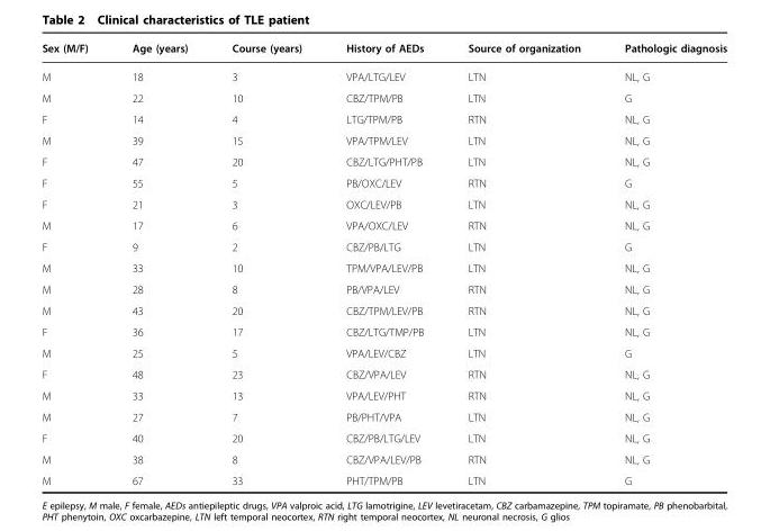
<table><thead><tr><td>Sex (M/F)</td><td>Age (years)</td><td>Course (years)</td><td>History of AEDs</td><td>Source of organization</td><td>Pathologic diagnosis</td></tr></thead><tbody><tr><td>M</td><td>18</td><td>3</td><td>VPA/LTG/LEV</td><td>LTN</td><td>NL, G</td></tr><tr><td>M</td><td>22</td><td>10</td><td>CBZ/TPM/PB</td><td>LTN</td><td>G</td></tr><tr><td>F</td><td>14</td><td>4</td><td>LTG/TPM/PB</td><td>RTN</td><td>NL, G</td></tr><tr><td>M</td><td>39</td><td>15</td><td>VPA/TPM/LEV</td><td>LTN</td><td>NL, G</td></tr><tr><td>F</td><td>47</td><td>20</td><td>CBZ/LTG/PHT/PB</td><td>LTN</td><td>NL, G</td></tr><tr><td>F</td><td>55</td><td>5</td><td>PB/OXC/LEV</td><td>RTN</td><td>G</td></tr><tr><td>F</td><td>21</td><td>3</td><td>OXC/LEV/PB</td><td>LTN</td><td>NL, G</td></tr><tr><td>M</td><td>17</td><td>6</td><td>VPA/OXC/LEV</td><td>RTN</td><td>NL, G</td></tr><tr><td>F</td><td>9</td><td>2</td><td>CBZ/PB/LTG</td><td>LTN</td><td>G</td></tr><tr><td>M</td><td>33</td><td>10</td><td>TPM/VPA/LEV/PB</td><td>LTN</td><td>NL, G</td></tr><tr><td>M</td><td>28</td><td>8</td><td>PB/VPA/LEV</td><td>RTN</td><td>NL, G</td></tr><tr><td>M</td><td>43</td><td>20</td><td>CBZ/TPM/LEV/PB</td><td>RTN</td><td>NL, G</td></tr><tr><td>F</td><td>36</td><td>17</td><td>CBZ/LTG/TMP/PB</td><td>LTN</td><td>NL, G</td></tr><tr><td>M</td><td>25</td><td>5</td><td>VPA/LEV/CBZ</td><td>LTN</td><td>G</td></tr><tr><td>F</td><td>48</td><td>23</td><td>CBZ/VPA/LEV</td><td>RTN</td><td>NL, G</td></tr><tr><td>M</td><td>33</td><td>13</td><td>VPA/LEV/PHT</td><td>RTN</td><td>NL, G</td></tr><tr><td>M</td><td>27</td><td>7</td><td>PB/PHT/VPA</td><td>LTN</td><td>NL, G</td></tr><tr><td>F</td><td>40</td><td>20</td><td>CBZ/PB/LTG/LEV</td><td>LTN</td><td>NL, G</td></tr><tr><td>M</td><td>38</td><td>8</td><td>CBZ/VPA/LEV/PB</td><td>RTN</td><td>NL, G</td></tr><tr><td>M</td><td>67</td><td>33</td><td>PHT/TPM/PB</td><td>LTN</td><td>G</td></tr></tbody></table>